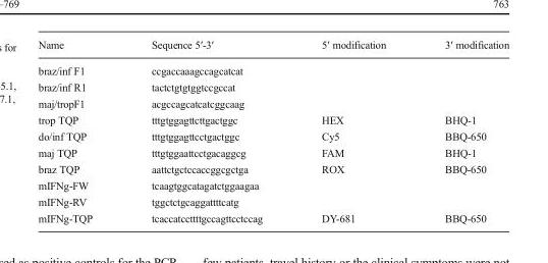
<table><thead><tr><td>Name</td><td>Sequence 5′-3′</td><td>5′ modification</td><td>3′ modification</td></tr></thead><tbody><tr><td>braz/inf F1</td><td>ccgaccaaagccagcatcat</td><td></td><td></td></tr><tr><td>braz/inf R1</td><td>tactctgtgtggtccgccat</td><td></td><td></td></tr><tr><td>maj/tropF1</td><td>acgccagcatcatcggcaag</td><td></td><td></td></tr><tr><td>trop TQP</td><td>tttgtggagttcttgactggc</td><td>HEX</td><td>BHQ-1</td></tr><tr><td>do/inf TQP</td><td>tttgtggagttcctgactggc</td><td>Cy5</td><td>BBQ-650</td></tr><tr><td>maj TQP</td><td>tttgtggaattcctgacaggcg</td><td>FAM</td><td>BHQ-1</td></tr><tr><td>braz TQP</td><td>aattctgctccaccggcgctga</td><td>ROX</td><td>BBQ-650</td></tr><tr><td>mIFNg-FW</td><td>tcaagtggcatagatctggaagaa</td><td></td><td></td></tr><tr><td>mIFNg-RV</td><td>tggctctgcaggattttcatg</td><td></td><td></td></tr><tr><td>mIFNg-TQP</td><td>tcaccatccttttgccagttcctccag</td><td>DY-681</td><td>BBQ-650</td></tr></tbody></table>